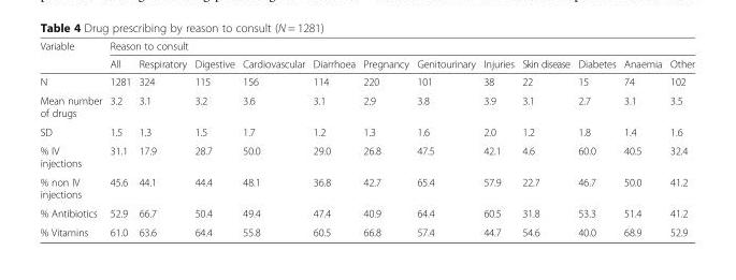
<table><thead><tr><td rowspan="2">Variable</td><td colspan="12">Reason to consult</td></tr><tr><td>All</td><td>Respiratory</td><td>Digestive</td><td>Cardiovascular</td><td>Diarrhoea</td><td>Pregnancy</td><td>Genitourinary</td><td>Injuries</td><td>Skin disease</td><td>Diabetes</td><td>Anaemia</td><td>Other</td></tr></thead><tbody><tr><td>N</td><td>1281</td><td>324</td><td>115</td><td>156</td><td>114</td><td>220</td><td>101</td><td>38</td><td>22</td><td>15</td><td>74</td><td>102</td></tr><tr><td>Mean number of drugs</td><td>3.2</td><td>3.1</td><td>3.2</td><td>3.6</td><td>3.1</td><td>2.9</td><td>3.8</td><td>3.9</td><td>3.1</td><td>2.7</td><td>3.1</td><td>3.5</td></tr><tr><td>SD</td><td>1.5</td><td>1.3</td><td>1.5</td><td>1.7</td><td>1.2</td><td>1.3</td><td>1.6</td><td>2.0</td><td>1.2</td><td>1.8</td><td>1.4</td><td>1.6</td></tr><tr><td>% IV injections</td><td>31.1</td><td>17.9</td><td>28.7</td><td>50.0</td><td>29.0</td><td>26.8</td><td>47.5</td><td>42.1</td><td>4.6</td><td>60.0</td><td>40.5</td><td>32.4</td></tr><tr><td>% non IV injections</td><td>45.6</td><td>44.1</td><td>44.4</td><td>48.1</td><td>36.8</td><td>42.7</td><td>65.4</td><td>57.9</td><td>22.7</td><td>46.7</td><td>50.0</td><td>41.2</td></tr><tr><td>% Antibiotics</td><td>52.9</td><td>66.7</td><td>50.4</td><td>49.4</td><td>47.4</td><td>40.9</td><td>64.4</td><td>60.5</td><td>31.8</td><td>53.3</td><td>51.4</td><td>41.2</td></tr><tr><td>% Vitamins</td><td>61.0</td><td>63.6</td><td>64.4</td><td>55.8</td><td>60.5</td><td>66.8</td><td>57.4</td><td>44.7</td><td>54.6</td><td>40.0</td><td>68.9</td><td>52.9</td></tr></tbody></table>